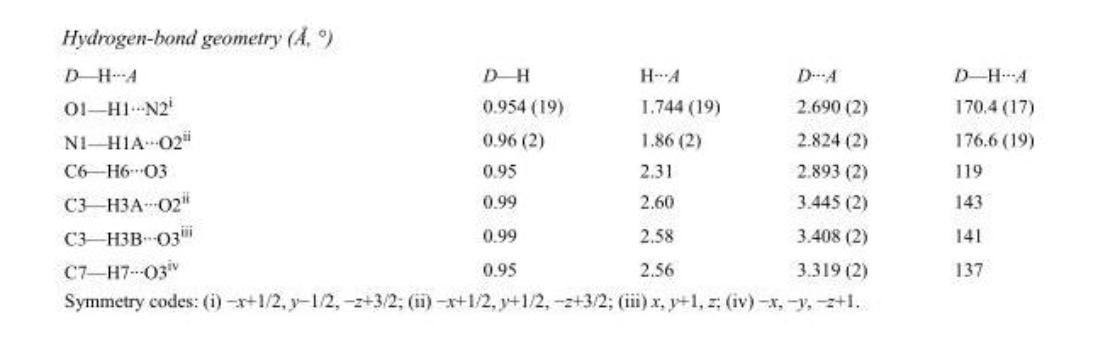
<table><tbody><tr><td>D—H···A</td><td>D—H</td><td>H···A</td><td>D···A</td><td>D—H···A</td></tr><tr><td>O1—H1···N2<sup>i</sup></td><td>0.954 (19)</td><td>1.744 (19)</td><td>2.690 (2)</td><td>170.4 (17)</td></tr><tr><td>N1—H1A···O2<sup>ii</sup></td><td>0.96 (2)</td><td>1.86 (2)</td><td>2.824 (2)</td><td>176.6 (19)</td></tr><tr><td>C6—H6···O3</td><td>0.95</td><td>2.31</td><td>2.893 (2)</td><td>119</td></tr><tr><td>C3—H3A···O2<sup>ii</sup></td><td>0.99</td><td>2.60</td><td>3.445 (2)</td><td>143</td></tr><tr><td>C3—H3B···O3<sup>iii</sup></td><td>0.99</td><td>2.58</td><td>3.408 (2)</td><td>141</td></tr><tr><td>C7—H7···O3<sup>iv</sup></td><td>0.95</td><td>2.56</td><td>3.319 (2)</td><td>137</td></tr></tbody></table>